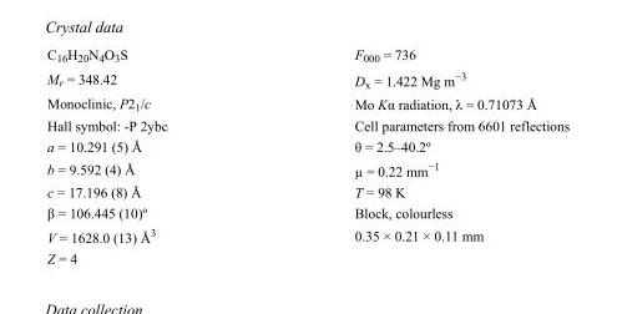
<table><tbody><tr><td>C<sub>16</sub>H<sub>20</sub>N<sub>4</sub>O<sub>3</sub>S</td><td>F000 = 736</td></tr><tr><td>M<sub>r</sub> = 348.42</td><td>D<sub>x</sub> = 1.422 Mg m<sup>−3</sup></td></tr><tr><td>Monoclinic, P2<sub>1</sub>/c</td><td>Mo Kα radiation, λ = 0.71073 Å</td></tr><tr><td>Hall symbol: -P 2ybc</td><td>Cell parameters from 6601 reflections</td></tr><tr><td>a = 10.291 (5) Å</td><td>θ = 2.5–40.2º</td></tr><tr><td>b = 9.592 (4) Å</td><td>µ = 0.22 mm<sup>−1</sup></td></tr><tr><td>c = 17.196 (8) Å</td><td>T = 98 K</td></tr><tr><td>β = 106.445 (10)º</td><td>Block, colourless</td></tr><tr><td>V = 1628.0 (13) Å<sup>3</sup></td><td>0.35 × 0.21 × 0.11 mm</td></tr><tr><td>Z = 4</td><td></td></tr></tbody></table>